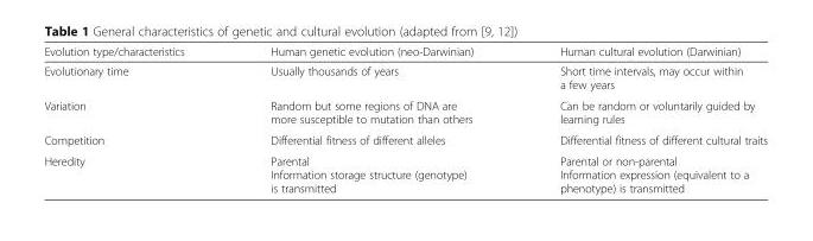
<table><thead><tr><td>Evolution type/characteristics</td><td>Human genetic evolution (neo-Darwinian)</td><td>Human cultural evolution (Darwinian)</td></tr></thead><tbody><tr><td>Evolutionary time</td><td>Usually thousands of years</td><td>Short time intervals, may occur within a few years</td></tr><tr><td>Variation</td><td>Random but some regions of DNA are more susceptible to mutation than others</td><td>Can be random or voluntarily guided by learning rules</td></tr><tr><td>Competition</td><td>Differential fitness of different alleles</td><td>Differential fitness of different cultural traits</td></tr><tr><td>Heredity</td><td>Parental Information storage structure (genotype) is transmitted</td><td>Parental or non-parental Information expression (equivalent to a phenotype) is transmitted</td></tr></tbody></table>